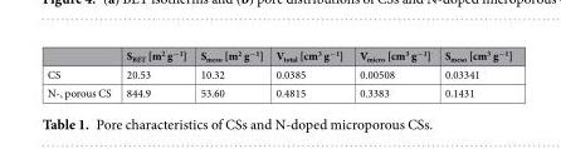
<table><thead><tr><td></td><td>S<sub>BET</sub> [m<sup>2</sup> g<sup>−1</sup>]</td><td>S<sub>meso</sub> [m<sup>2</sup> g<sup>−1</sup>]</td><td>V<sub>total</sub> [cm<sup>3</sup> g<sup>−1</sup>]</td><td>V<sub>micro</sub> [cm<sup>3</sup> g<sup>−1</sup>]</td><td>S<sub>meso</sub> [cm<sup>3</sup> g<sup>−1</sup>]</td></tr></thead><tbody><tr><td>CS</td><td>20.53</td><td>10.32</td><td>0.0385</td><td>0.00508</td><td>0.03341</td></tr><tr><td>N-, porous CS</td><td>844.9</td><td>53.60</td><td>0.4815</td><td>0.3383</td><td>0.1431</td></tr></tbody></table>